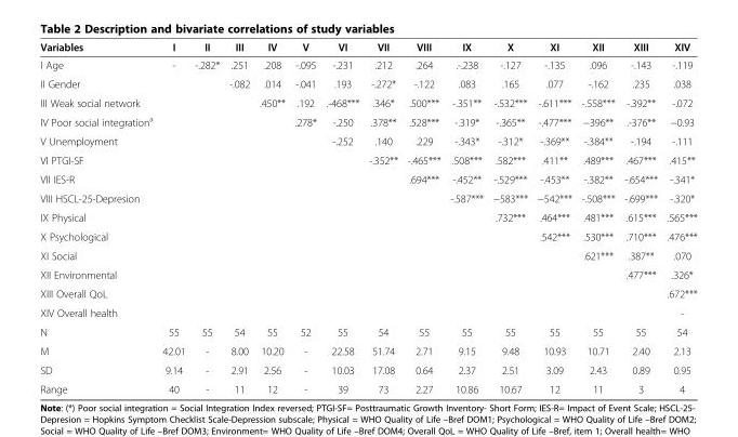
<table><thead><tr><td>Variables</td><td>I</td><td>II</td><td>III</td><td>IV</td><td>V</td><td>VI</td><td>VII</td><td>VIII</td><td>IX</td><td>X</td><td>XI</td><td>XII</td><td>XIII</td><td>XIV</td></tr></thead><tbody><tr><td>I Age</td><td>-</td><td>-.282*</td><td>.251</td><td>.208</td><td>-.095</td><td>-.231</td><td>.212</td><td>.264</td><td>.-.238</td><td>-.127</td><td>-.135</td><td>.096</td><td>-.143</td><td>-.119</td></tr><tr><td>II Gender</td><td></td><td></td><td>-.082</td><td>.014</td><td>-.041</td><td>.193</td><td>-.272*</td><td>-.122</td><td>.083</td><td>.165</td><td>.077</td><td>-.162</td><td>.235</td><td>.038</td></tr><tr><td>III Weak social network</td><td></td><td></td><td></td><td>.450**</td><td>.192</td><td>.-468***</td><td>.346*</td><td>.500***</td><td>-.351**</td><td>-.532***</td><td>-.611***</td><td>-.558***</td><td>-.392**</td><td>-.072</td></tr><tr><td>IV Poor social integration<sup>a</sup></td><td></td><td></td><td></td><td></td><td>.278*</td><td>-.250</td><td>.378**</td><td>.528***</td><td>-.319*</td><td>-.365**</td><td>-.477***</td><td>−396**</td><td>.-376**</td><td>−0.93</td></tr><tr><td>V Unemployment</td><td></td><td></td><td></td><td></td><td></td><td>-.252</td><td>.140</td><td>.229</td><td>-.343*</td><td>-.312*</td><td>-.369**</td><td>-.384**</td><td>-.194</td><td>-.111</td></tr><tr><td>VI PTGI-SF</td><td></td><td></td><td></td><td></td><td></td><td></td><td>-.352**</td><td>-.465***</td><td>.508***</td><td>.582***</td><td>.411**</td><td>.489***</td><td>.467***</td><td>.415**</td></tr><tr><td>VII IES-R</td><td></td><td></td><td></td><td></td><td></td><td></td><td></td><td>.694***</td><td>-.452**</td><td>-.529***</td><td>-.453**</td><td>-.382**</td><td>-.654***</td><td>-.341*</td></tr><tr><td>VIII HSCL-25-Depresion</td><td></td><td></td><td></td><td></td><td></td><td></td><td></td><td></td><td>-.587***</td><td>−583***</td><td>−542***</td><td>-.508***</td><td>-.699***</td><td>-.320*</td></tr><tr><td>IX Physical</td><td></td><td></td><td></td><td></td><td></td><td></td><td></td><td></td><td></td><td>.732***</td><td>.464***</td><td>.481***</td><td>.615***</td><td>.565***</td></tr><tr><td>X Psychological</td><td></td><td></td><td></td><td></td><td></td><td></td><td></td><td></td><td></td><td></td><td>.542***</td><td>.530***</td><td>.710***</td><td>.476***</td></tr><tr><td>XI Social</td><td></td><td></td><td></td><td></td><td></td><td></td><td></td><td></td><td></td><td></td><td></td><td>.621***</td><td>.387**</td><td>.070</td></tr><tr><td>XII Environmental</td><td></td><td></td><td></td><td></td><td></td><td></td><td></td><td></td><td></td><td></td><td></td><td></td><td>.477***</td><td>.326*</td></tr><tr><td>XIII Overall QoL</td><td></td><td></td><td></td><td></td><td></td><td></td><td></td><td></td><td></td><td></td><td></td><td></td><td></td><td>.672***</td></tr><tr><td>XIV Overall health</td><td></td><td></td><td></td><td></td><td></td><td></td><td></td><td></td><td></td><td></td><td></td><td></td><td></td><td>-</td></tr><tr><td>N</td><td>55</td><td>55</td><td>54</td><td>55</td><td>52</td><td>55</td><td>54</td><td>55</td><td>55</td><td>55</td><td>55</td><td>55</td><td>55</td><td>54</td></tr><tr><td>M</td><td>42.01</td><td>-</td><td>8.00</td><td>10.20</td><td>-</td><td>22.58</td><td>51.74</td><td>2.71</td><td>9.15</td><td>9.48</td><td>10.93</td><td>10.71</td><td>2.40</td><td>2.13</td></tr><tr><td>SD</td><td>9.14</td><td>-</td><td>2.91</td><td>2.56</td><td>-</td><td>10.03</td><td>17.08</td><td>0.64</td><td>2.37</td><td>2.51</td><td>3.09</td><td>2.43</td><td>0.89</td><td>0.95</td></tr><tr><td>Range</td><td>40</td><td>-</td><td>11</td><td>12</td><td>-</td><td>39</td><td>73</td><td>2.27</td><td>10.86</td><td>10.67</td><td>12</td><td>11</td><td>3</td><td>4</td></tr></tbody></table>